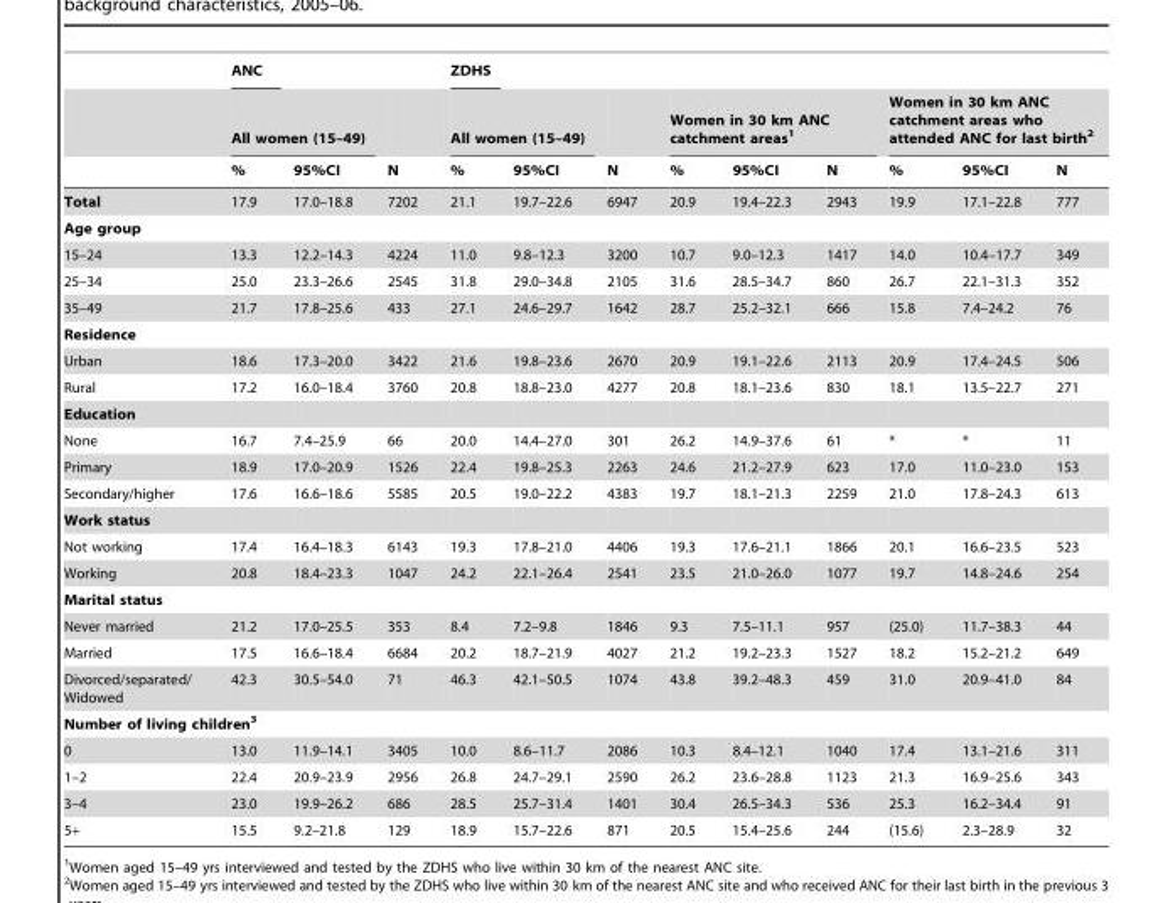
<table><thead><tr><td rowspan="3"></td><td>ANC</td><td></td><td rowspan="3">N</td><td>ZDHS</td><td></td><td rowspan="3">N</td><td></td><td></td><td></td><td></td><td></td><td></td></tr><tr><td colspan="2">All women (15–49)</td><td colspan="2">All women (15–49)</td><td colspan="3">Women in 30 km ANC catchment areas<sup>1</sup></td><td colspan="3">Women in 30 km ANC catchment areas who attended ANC for last birth<sup>2</sup></td></tr><tr><td>%</td><td>95%CI</td><td>%</td><td>95%CI</td><td>%</td><td>95%CI</td><td>N</td><td>%</td><td>95%CI</td><td>N</td></tr></thead><tbody><tr><td>Total</td><td>17.9</td><td>17.0–18.8</td><td>7202</td><td>21.1</td><td>19.7–22.6</td><td>6947</td><td>20.9</td><td>19.4–22.3</td><td>2943</td><td>19.9</td><td>17.1–22.8</td><td>777</td></tr><tr><td colspan="13">Age group</td></tr><tr><td>15–24</td><td>13.3</td><td>12.2–14.3</td><td>4224</td><td>11.0</td><td>9.8–12.3</td><td>3200</td><td>10.7</td><td>9.0–12.3</td><td>1417</td><td>14.0</td><td>10.4–17.7</td><td>349</td></tr><tr><td>25–34</td><td>25.0</td><td>23.3–26.6</td><td>2545</td><td>31.8</td><td>29.0–34.8</td><td>2105</td><td>31.6</td><td>28.5–34.7</td><td>860</td><td>26.7</td><td>22.1–31.3</td><td>352</td></tr><tr><td>35–49</td><td>21.7</td><td>17.8–25.6</td><td>433</td><td>27.1</td><td>24.6–29.7</td><td>1642</td><td>28.7</td><td>25.2–32.1</td><td>666</td><td>15.8</td><td>7.4–24.2</td><td>76</td></tr><tr><td colspan="13">Residence</td></tr><tr><td>Urban</td><td>18.6</td><td>17.3–20.0</td><td>3422</td><td>21.6</td><td>19.8–23.6</td><td>2670</td><td>20.9</td><td>19.1–22.6</td><td>2113</td><td>20.9</td><td>17.4–24.5</td><td>506</td></tr><tr><td>Rural</td><td>17.2</td><td>16.0–18.4</td><td>3760</td><td>20.8</td><td>18.8–23.0</td><td>4277</td><td>20.8</td><td>18.1–23.6</td><td>830</td><td>18.1</td><td>13.5–22.7</td><td>271</td></tr><tr><td colspan="13">Education</td></tr><tr><td>None</td><td>16.7</td><td>7.4–25.9</td><td>66</td><td>20.0</td><td>14.4–27.0</td><td>301</td><td>26.2</td><td>14.9–37.6</td><td>61</td><td>*</td><td>*</td><td>11</td></tr><tr><td>Primary</td><td>18.9</td><td>17.0–20.9</td><td>1526</td><td>22.4</td><td>19.8–25.3</td><td>2263</td><td>24.6</td><td>21.2–27.9</td><td>623</td><td>17.0</td><td>11.0–23.0</td><td>153</td></tr><tr><td>Secondary/higher</td><td>17.6</td><td>16.6–18.6</td><td>5585</td><td>20.5</td><td>19.0–22.2</td><td>4383</td><td>19.7</td><td>18.1–21.3</td><td>2259</td><td>21.0</td><td>17.8–24.3</td><td>613</td></tr><tr><td colspan="13">Work status</td></tr><tr><td>Not working</td><td>17.4</td><td>16.4–18.3</td><td>6143</td><td>19.3</td><td>17.8–21.0</td><td>4406</td><td>19.3</td><td>17.6–21.1</td><td>1866</td><td>20.1</td><td>16.6–23.5</td><td>523</td></tr><tr><td>Working</td><td>20.8</td><td>18.4–23.3</td><td>1047</td><td>24.2</td><td>22.1–26.4</td><td>2541</td><td>23.5</td><td>21.0–26.0</td><td>1077</td><td>19.7</td><td>14.8–24.6</td><td>254</td></tr><tr><td colspan="13">Marital status</td></tr><tr><td>Never married</td><td>21.2</td><td>17.0–25.5</td><td>353</td><td>8.4</td><td>7.2–9.8</td><td>1846</td><td>9.3</td><td>7.5–11.1</td><td>957</td><td>(25.0)</td><td>11.7–38.3</td><td>44</td></tr><tr><td>Married</td><td>17.5</td><td>16.6–18.4</td><td>6684</td><td>20.2</td><td>18.7–21.9</td><td>4027</td><td>21.2</td><td>19.2–23.3</td><td>1527</td><td>18.2</td><td>15.2–21.2</td><td>649</td></tr><tr><td>Divorced/separated/ Widowed</td><td>42.3</td><td>30.5–54.0</td><td>71</td><td>46.3</td><td>42.1–50.5</td><td>1074</td><td>43.8</td><td>39.2–48.3</td><td>459</td><td>31.0</td><td>20.9–41.0</td><td>84</td></tr><tr><td colspan="13">Number of living children3</td></tr><tr><td>0</td><td>13.0</td><td>11.9–14.1</td><td>3405</td><td>10.0</td><td>8.6–11.7</td><td>2086</td><td>10.3</td><td>8.4–12.1</td><td>1040</td><td>17.4</td><td>13.1–21.6</td><td>311</td></tr><tr><td>1–2</td><td>22.4</td><td>20.9–23.9</td><td>2956</td><td>26.8</td><td>24.7–29.1</td><td>2590</td><td>26.2</td><td>23.6–28.8</td><td>1123</td><td>21.3</td><td>16.9–25.6</td><td>343</td></tr><tr><td>3–4</td><td>23.0</td><td>19.9–26.2</td><td>686</td><td>28.5</td><td>25.7–31.4</td><td>1401</td><td>30.4</td><td>26.5–34.3</td><td>536</td><td>25.3</td><td>16.2–34.4</td><td>91</td></tr><tr><td>5+</td><td>15.5</td><td>9.2–21.8</td><td>129</td><td>18.9</td><td>15.7–22.6</td><td>871</td><td>20.5</td><td>15.4–25.6</td><td>244</td><td>(15.6)</td><td>2.3–28.9</td><td>32</td></tr></tbody></table>